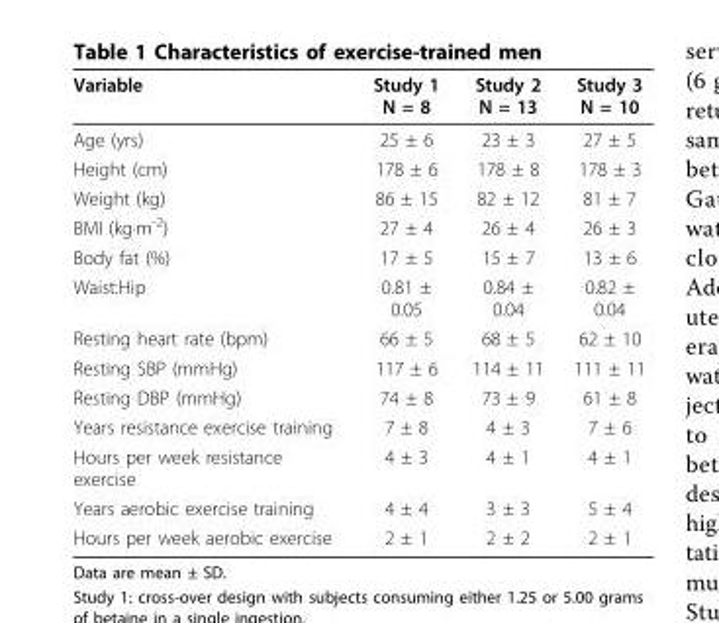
<table><thead><tr><td>Variable</td><td>Study 1 N = 8</td><td>Study 2 N = 13</td><td>Study 3 N = 10</td></tr></thead><tbody><tr><td>Age (yrs)</td><td>25 ± 6</td><td>23 ± 3</td><td>27 ± 5</td></tr><tr><td>Height (cm)</td><td>178 ± 6</td><td>178 ± 8</td><td>178 ± 3</td></tr><tr><td>Weight (kg)</td><td>86 ± 15</td><td>82 ± 12</td><td>81 ± 7</td></tr><tr><td>BMI (kg∙m<sup>-2</sup>)</td><td>27 ± 4</td><td>26 ± 4</td><td>26 ± 3</td></tr><tr><td>Body fat (%)</td><td>17 ± 5</td><td>15 ± 7</td><td>13 ± 6</td></tr><tr><td>Waist:Hip</td><td>0.81 ± 0.05</td><td>0.84 ± 0.04</td><td>0.82 ± 0.04</td></tr><tr><td>Resting heart rate (bpm)</td><td>66 ± 5</td><td>68 ± 5</td><td>62 ± 10</td></tr><tr><td>Resting SBP (mmHg)</td><td>117 ± 6</td><td>114 ± 11</td><td>111 ± 11</td></tr><tr><td>Resting DBP (mmHg)</td><td>74 ± 8</td><td>73 ± 9</td><td>61 ± 8</td></tr><tr><td>Years resistance exercise training</td><td>7 ± 8</td><td>4 ± 3</td><td>7 ± 6</td></tr><tr><td>Hours per week resistance exercise</td><td>4 ± 3</td><td>4 ± 1</td><td>4 ± 1</td></tr><tr><td>Years aerobic exercise training</td><td>4 ± 4</td><td>3 ± 3</td><td>5 ± 4</td></tr><tr><td>Hours per week aerobic exercise</td><td>2 ± 1</td><td>2 ± 2</td><td>2 ± 1</td></tr></tbody></table>